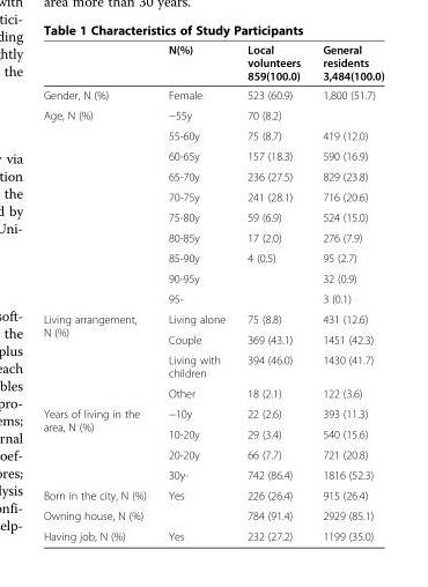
<table><thead><tr><td></td><td>N(%)</td><td>Local volunteers 859(100.0)</td><td>General residents 3,484(100.0)</td></tr></thead><tbody><tr><td>Gender, N (%)</td><td>Female</td><td>523 (60.9)</td><td>1,800 (51.7)</td></tr><tr><td rowspan="10">Age, N (%)</td><td>−55y</td><td>70 (8.2)</td><td></td></tr><tr><td>55-60y</td><td>75 (8.7)</td><td>419 (12.0)</td></tr><tr><td>60-65y</td><td>157 (18.3)</td><td>590 (16.9)</td></tr><tr><td>65-70y</td><td>236 (27.5)</td><td>829 (23.8)</td></tr><tr><td>70-75y</td><td>241 (28.1)</td><td>716 (20.6)</td></tr><tr><td>75-80y</td><td>59 (6.9)</td><td>524 (15.0)</td></tr><tr><td>80-85y</td><td>17 (2.0)</td><td>276 (7.9)</td></tr><tr><td>85-90y</td><td>4 (0.5)</td><td>95 (2.7)</td></tr><tr><td>90-95y</td><td></td><td>32 (0.9)</td></tr><tr><td>95-</td><td></td><td>3 (0.1)</td></tr><tr><td rowspan="4">Living arrangement, N (%)</td><td>Living alone</td><td>75 (8.8)</td><td>431 (12.6)</td></tr><tr><td>Couple</td><td>369 (43.1)</td><td>1451 (42.3)</td></tr><tr><td>Living with children</td><td>394 (46.0)</td><td>1430 (41.7)</td></tr><tr><td>Other</td><td>18 (2.1)</td><td>122 (3.6)</td></tr><tr><td rowspan="4">Years of living in the area, N (%)</td><td>−10y</td><td>22 (2.6)</td><td>393 (11.3)</td></tr><tr><td>10-20y</td><td>29 (3.4)</td><td>540 (15.6)</td></tr><tr><td>20-20y</td><td>66 (7.7)</td><td>721 (20.8)</td></tr><tr><td>30y-</td><td>742 (86.4)</td><td>1816 (52.3)</td></tr><tr><td>Born in the city, N (%)</td><td>Yes</td><td>226 (26.4)</td><td>915 (26.4)</td></tr><tr><td>Owning house, N (%)</td><td></td><td>784 (91.4)</td><td>2929 (85.1)</td></tr><tr><td>Having job, N (%)</td><td>Yes</td><td>232 (27.2)</td><td>1199 (35.0)</td></tr></tbody></table>